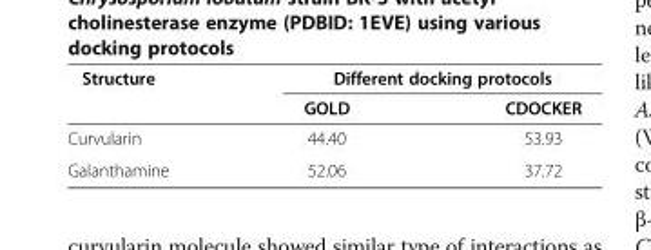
<table><thead><tr><td rowspan="2">Structure</td><td colspan="2">Different docking protocols</td></tr><tr><td>GOLD</td><td>CDOCKER</td></tr></thead><tbody><tr><td>Curvularin</td><td>44.40</td><td>53.93</td></tr><tr><td>Galanthamine</td><td>52.06</td><td>37.72</td></tr></tbody></table>